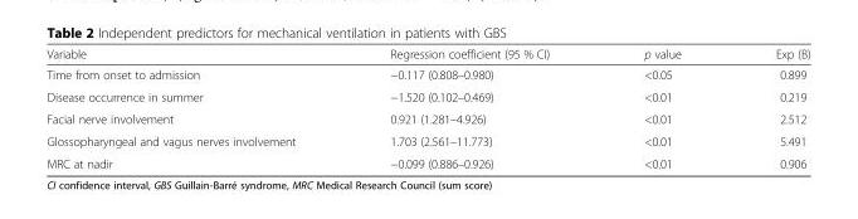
<table><thead><tr><td>Variable</td><td>Regression coefficient (95 % CI)</td><td>p value</td><td>Exp (B)</td></tr></thead><tbody><tr><td>Time from onset to admission</td><td>−0.117 (0.808–0.980)</td><td>&lt;0.05</td><td>0.899</td></tr><tr><td>Disease occurrence in summer</td><td>−1.520 (0.102–0.469)</td><td>&lt;0.01</td><td>0.219</td></tr><tr><td>Facial nerve involvement</td><td>0.921 (1.281–4.926)</td><td>&lt;0.01</td><td>2.512</td></tr><tr><td>Glossopharyngeal and vagus nerves involvement</td><td>1.703 (2.561–11.773)</td><td>&lt;0.01</td><td>5.491</td></tr><tr><td>MRC at nadir</td><td>−0.099 (0.886–0.926)</td><td>&lt;0.01</td><td>0.906</td></tr></tbody></table>